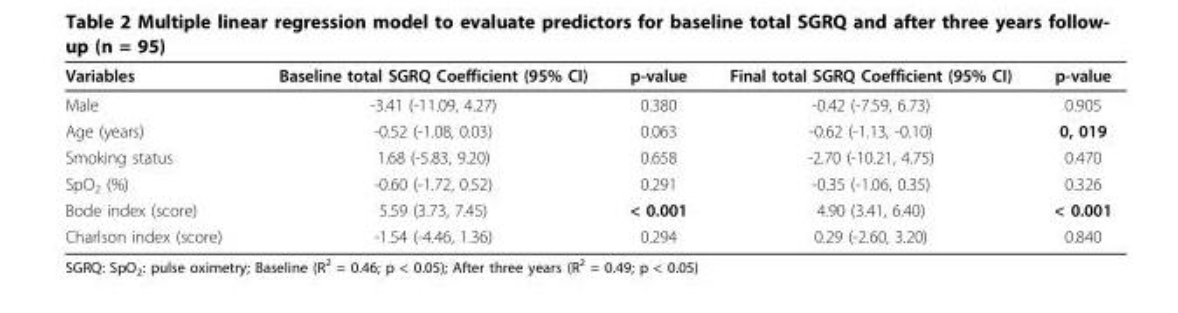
<table><thead><tr><td>Variables</td><td>Baseline total SGRQ Coefficient (95% CI)</td><td>p-value</td><td>Final total SGRQ Coefficient (95% CI)</td><td>p-value</td></tr></thead><tbody><tr><td>Male</td><td>-3.41 (-11.09, 4.27)</td><td>0.380</td><td>-0.42 (-7.59, 6.73)</td><td>0.905</td></tr><tr><td>Age (years)</td><td>-0.52 (-1.08, 0.03)</td><td>0.063</td><td>-0.62 (-1.13, -0.10)</td><td>0, 019</td></tr><tr><td>Smoking status</td><td>1.68 (-5.83, 9.20)</td><td>0.658</td><td>-2.70 (-10.21, 4.75)</td><td>0.470</td></tr><tr><td>SpO<sub>2</sub> (%)</td><td>-0.60 (-1.72, 0.52)</td><td>0.291</td><td>-0.35 (-1.06, 0.35)</td><td>0.326</td></tr><tr><td>Bode index (score)</td><td>5.59 (3.73, 7.45)</td><td>&lt; 0.001</td><td>4.90 (3.41, 6.40)</td><td>&lt; 0.001</td></tr><tr><td>Charlson index (score)</td><td>-1.54 (-4.46, 1.36)</td><td>0.294</td><td>0.29 (-2.60, 3.20)</td><td>0.840</td></tr></tbody></table>